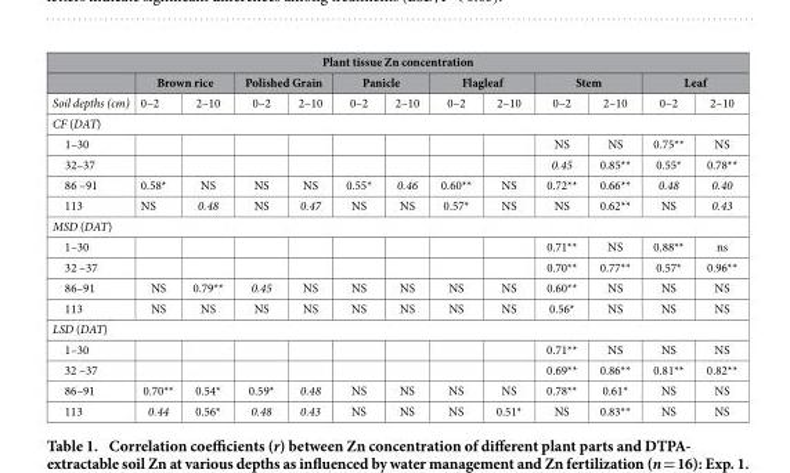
<table><thead><tr><td colspan="13">Plant tissue Zn concentration</td></tr><tr><td rowspan="2">Soil depths (cm)</td><td colspan="2">Brown rice</td><td colspan="2">Polished Grain</td><td colspan="2">Panicle</td><td colspan="2">Flagleaf</td><td colspan="2">Stem</td><td colspan="2">Leaf</td></tr><tr><td>0–2</td><td>2–10</td><td>0–2</td><td>2–10</td><td>0–2</td><td>2–10</td><td>0–2</td><td>2–10</td><td>0–2</td><td>2–10</td><td>0–2</td><td>2–10</td></tr></thead><tbody><tr><td colspan="13">CF (DAT)</td></tr><tr><td>1–30</td><td></td><td></td><td></td><td></td><td></td><td></td><td></td><td></td><td>NS</td><td>NS</td><td>0.75**</td><td>NS</td></tr><tr><td>32–37</td><td></td><td></td><td></td><td></td><td></td><td></td><td></td><td></td><td>0.45</td><td>0.85**</td><td>0.55*</td><td>0.78**</td></tr><tr><td>86 –91</td><td>0.58*</td><td>NS</td><td>NS</td><td>NS</td><td>0.55*</td><td>0.46</td><td>0.60**</td><td>NS</td><td>0.72**</td><td>0.66**</td><td>0.48</td><td>0.40</td></tr><tr><td>113</td><td>NS</td><td>0.48</td><td>NS</td><td>0.47</td><td>NS</td><td>NS</td><td>0.57*</td><td>NS</td><td>NS</td><td>0.62**</td><td>NS</td><td>0.43</td></tr><tr><td colspan="13">MSD (DAT)</td></tr><tr><td>1–30</td><td></td><td></td><td></td><td></td><td></td><td></td><td></td><td></td><td>0.71**</td><td>NS</td><td>0.88**</td><td>ns</td></tr><tr><td>32 –37</td><td></td><td></td><td></td><td></td><td></td><td></td><td></td><td></td><td>0.70**</td><td>0.77**</td><td>0.57*</td><td>0.96**</td></tr><tr><td>86–91</td><td>NS</td><td>0.79**</td><td>0.45</td><td>NS</td><td>NS</td><td>NS</td><td>NS</td><td>NS</td><td>0.60**</td><td>NS</td><td>NS</td><td>NS</td></tr><tr><td>113</td><td>NS</td><td>NS</td><td>NS</td><td>NS</td><td>NS</td><td>NS</td><td>NS</td><td>NS</td><td>0.56*</td><td>NS</td><td>NS</td><td>NS</td></tr><tr><td colspan="13">LSD (DAT)</td></tr><tr><td>1–30</td><td></td><td></td><td></td><td></td><td></td><td></td><td></td><td></td><td>0.71**</td><td>NS</td><td>NS</td><td>NS</td></tr><tr><td>32 –37</td><td></td><td></td><td></td><td></td><td></td><td></td><td></td><td></td><td>0.69**</td><td>0.86**</td><td>0.81**</td><td>0.82**</td></tr><tr><td>86–91</td><td>0.70**</td><td>0.54*</td><td>0.59*</td><td>0.48</td><td>NS</td><td>NS</td><td>NS</td><td>NS</td><td>0.78**</td><td>0.61*</td><td>NS</td><td>NS</td></tr><tr><td>113</td><td>0.44</td><td>0.56*</td><td>0.48</td><td>0.43</td><td>NS</td><td>NS</td><td>NS</td><td>0.51*</td><td>NS</td><td>0.83**</td><td>NS</td><td>NS</td></tr></tbody></table>